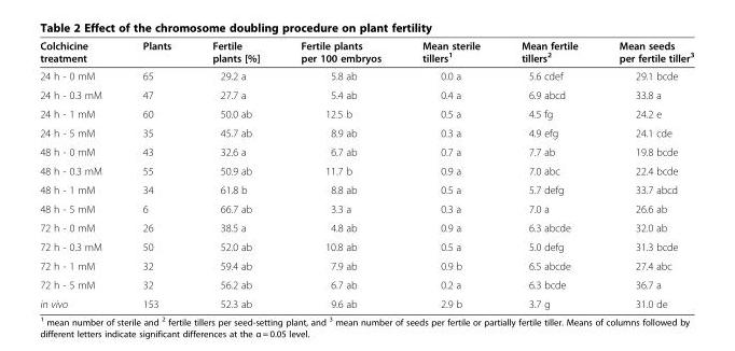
<table><thead><tr><td>Colchicine treatment</td><td>Plants</td><td>Fertile plants [%]</td><td>Fertile plants per 100 embryos</td><td>Mean sterile tillers<sup>1</sup></td><td>Mean fertile tillers<sup>2</sup></td><td>Mean seeds per fertile tiller<sup>3</sup></td></tr></thead><tbody><tr><td>24 h - 0 mM</td><td>65</td><td>29.2 a</td><td>5.8 ab</td><td>0.0 a</td><td>5.6 cdef</td><td>29.1 bcde</td></tr><tr><td>24 h - 0.3 mM</td><td>47</td><td>27.7 a</td><td>5.4 ab</td><td>0.4 a</td><td>6.9 abcd</td><td>33.8 a</td></tr><tr><td>24 h - 1 mM</td><td>60</td><td>50.0 ab</td><td>12.5 b</td><td>0.5 a</td><td>4.5 fg</td><td>24.2 e</td></tr><tr><td>24 h - 5 mM</td><td>35</td><td>45.7 ab</td><td>8.9 ab</td><td>0.3 a</td><td>4.9 efg</td><td>24.1 cde</td></tr><tr><td>48 h - 0 mM</td><td>43</td><td>32.6 a</td><td>6.7 ab</td><td>0.7 a</td><td>7.7 ab</td><td>19.8 bcde</td></tr><tr><td>48 h - 0.3 mM</td><td>55</td><td>50.9 ab</td><td>11.7 b</td><td>0.9 a</td><td>7.0 abc</td><td>22.4 bcde</td></tr><tr><td>48 h - 1 mM</td><td>34</td><td>61.8 b</td><td>8.8 ab</td><td>0.5 a</td><td>5.7 defg</td><td>33.7 abcd</td></tr><tr><td>48 h - 5 mM</td><td>6</td><td>66.7 ab</td><td>3.3 a</td><td>0.3 a</td><td>7.0 a</td><td>26.6 ab</td></tr><tr><td>72 h - 0 mM</td><td>26</td><td>38.5 a</td><td>4.8 ab</td><td>0.9 a</td><td>6.3 abcde</td><td>32.0 ab</td></tr><tr><td>72 h - 0.3 mM</td><td>50</td><td>52.0 ab</td><td>10.8 ab</td><td>0.5 a</td><td>5.0 defg</td><td>31.3 bcde</td></tr><tr><td>72 h - 1 mM</td><td>32</td><td>59.4 ab</td><td>7.9 ab</td><td>0.9 b</td><td>6.5 abcde</td><td>27.4 abc</td></tr><tr><td>72 h - 5 mM</td><td>32</td><td>56.2 ab</td><td>6.7 ab</td><td>0.2 a</td><td>6.3 bcde</td><td>36.7 a</td></tr><tr><td>in vivo</td><td>153</td><td>52.3 ab</td><td>9.6 ab</td><td>2.9 b</td><td>3.7 g</td><td>31.0 de</td></tr></tbody></table>